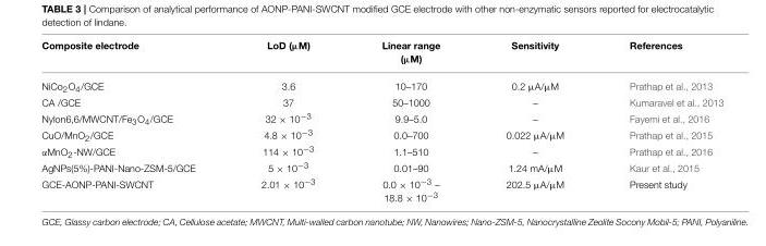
<table><thead><tr><td>Composite electrode</td><td>LoD (µM)</td><td>Linear range (µM)</td><td>Sensitivity</td><td>References</td></tr></thead><tbody><tr><td>NiCo<sub>2</sub>O<sub>4</sub>/GCE</td><td>3.6</td><td>10–170</td><td>0.2 µA/µM</td><td>Prathap et al., 2013</td></tr><tr><td>CA /GCE</td><td>37</td><td>50–1000</td><td>–</td><td>Kumaravel et al., 2013</td></tr><tr><td>Nylon6,6/MWCNT/Fe<sub>3</sub>O<sub>4</sub>/GCE</td><td>32 × 10<sup>−3</sup></td><td>9.9–5.0</td><td>–</td><td>Fayemi et al., 2016</td></tr><tr><td>CuO/MnO<sub>2</sub>/GCE</td><td>4.8 × 10<sup>−3</sup></td><td>0.0–700</td><td>0.022 µA/µM</td><td>Prathap et al., 2015</td></tr><tr><td>αMnO<sub>2</sub>-NW/GCE</td><td>114 × 10<sup>−3</sup></td><td>1.1–510</td><td>–</td><td>Prathap et al., 2016</td></tr><tr><td>AgNPs(5%)-PANI-Nano-ZSM-5/GCE</td><td>5 × 10<sup>−3</sup></td><td>0.01–90</td><td>1.24 mA/µM</td><td>Kaur et al., 2015</td></tr><tr><td>GCE-AONP-PANI-SWCNT</td><td>2.01 × 10<sup>−3</sup></td><td>0.0 × 10<sup>−3</sup> – 18.8 × 10<sup>−3</sup></td><td>202.5 µA/µM</td><td>Present study</td></tr></tbody></table>